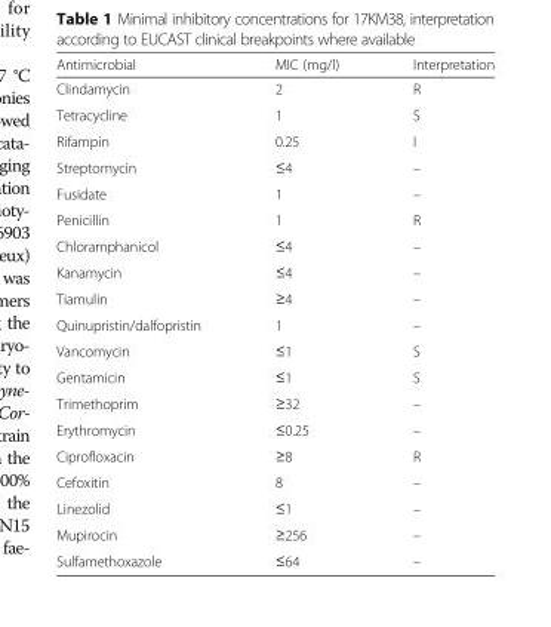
<table><thead><tr><td>Antimicrobial</td><td>MIC (mg/l)</td><td>Interpretation</td></tr></thead><tbody><tr><td>Clindamycin</td><td>2</td><td>R</td></tr><tr><td>Tetracycline</td><td>1</td><td>S</td></tr><tr><td>Rifampin</td><td>0.25</td><td>I</td></tr><tr><td>Streptomycin</td><td>≤4</td><td>–</td></tr><tr><td>Fusidate</td><td>1</td><td>–</td></tr><tr><td>Penicillin</td><td>1</td><td>R</td></tr><tr><td>Chloramphanicol</td><td>≤4</td><td>–</td></tr><tr><td>Kanamycin</td><td>≤4</td><td>–</td></tr><tr><td>Tiamulin</td><td>≥4</td><td>–</td></tr><tr><td>Quinupristin/dalfopristin</td><td>1</td><td>–</td></tr><tr><td>Vancomycin</td><td>≤1</td><td>S</td></tr><tr><td>Gentamicin</td><td>≤1</td><td>S</td></tr><tr><td>Trimethoprim</td><td>≥32</td><td>–</td></tr><tr><td>Erythromycin</td><td>≤0.25</td><td>–</td></tr><tr><td>Ciprofloxacin</td><td>≥8</td><td>R</td></tr><tr><td>Cefoxitin</td><td>8</td><td>–</td></tr><tr><td>Linezolid</td><td>≤1</td><td>–</td></tr><tr><td>Mupirocin</td><td>≥256</td><td>–</td></tr><tr><td>Sulfamethoxazole</td><td>≤64</td><td>–</td></tr></tbody></table>